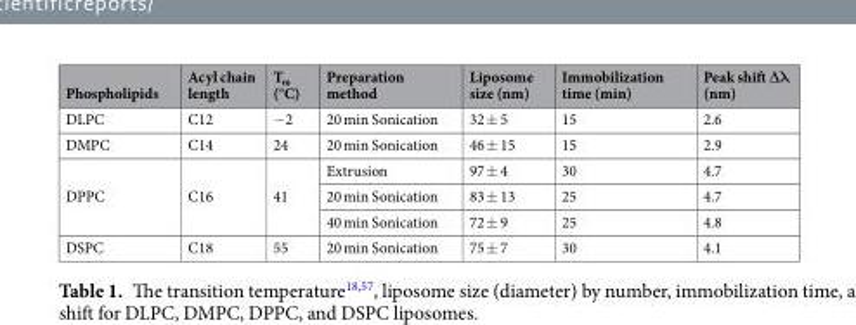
<table><thead><tr><td>Phospholipids</td><td>Acyl chain length</td><td>T<sub>m</sub> (°C)</td><td>Preparation method</td><td>Liposome size (nm)</td><td>Immobilization time (min)</td><td>Peak shift ∆λ (nm)</td></tr></thead><tbody><tr><td>DLPC</td><td>C12</td><td>−2</td><td>20 min Sonication</td><td>32 ± 5</td><td>15</td><td>2.6</td></tr><tr><td>DMPC</td><td>C14</td><td>24</td><td>20 min Sonication</td><td>46 ± 15</td><td>15</td><td>2.9</td></tr><tr><td rowspan="3">DPPC</td><td rowspan="3">C16</td><td rowspan="3">41</td><td>Extrusion</td><td>97 ± 4</td><td>30</td><td>4.7</td></tr><tr><td>20 min Sonication</td><td>83 ± 13</td><td>25</td><td>4.7</td></tr><tr><td>40 min Sonication</td><td>72 ± 9</td><td>25</td><td>4.8</td></tr><tr><td>DSPC</td><td>C18</td><td>55</td><td>20 min Sonication</td><td>75 ± 7</td><td>30</td><td>4.1</td></tr></tbody></table>